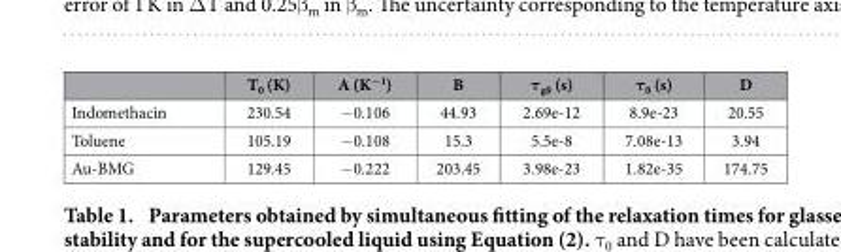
<table><thead><tr><td></td><td>T<sub>0</sub> (K)</td><td>A (K<sup>−1</sup>)</td><td>B</td><td>τ<sub>g0</sub> (s)</td><td>τ<sub>0</sub> (s)</td><td>D</td></tr></thead><tbody><tr><td>Indomethacin</td><td>230.54</td><td>− 0.106</td><td>44.93</td><td>2.69e-12</td><td>8.9e-23</td><td>20.55</td></tr><tr><td>Toluene</td><td>105.19</td><td>− 0.108</td><td>15.3</td><td>5.5e-8</td><td>7.08e-13</td><td>3.94</td></tr><tr><td>Au-BMG</td><td>129.45</td><td>− 0.222</td><td>203.45</td><td>3.98e-23</td><td>1.82e-35</td><td>174.75</td></tr></tbody></table>